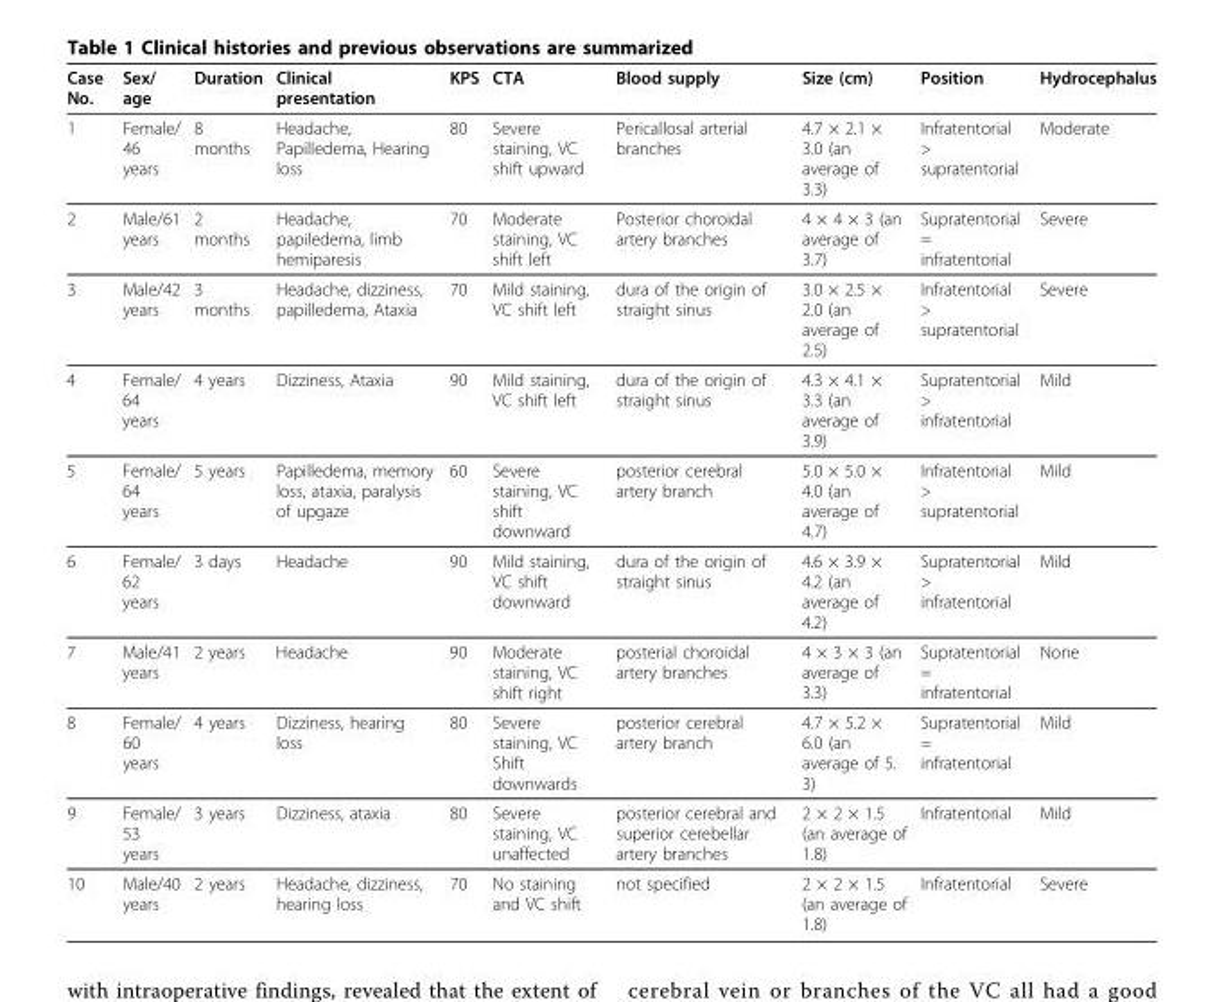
<table><thead><tr><td>Case No.</td><td>Sex/ age</td><td>Duration</td><td>Clinical presentation</td><td>KPS</td><td>CTA</td><td>Blood supply</td><td>Size (cm)</td><td>Position</td><td>Hydrocephalus</td></tr></thead><tbody><tr><td>1</td><td>Female/ 46 years</td><td>8 months</td><td>Headache, Papilledema, Hearing loss</td><td>80</td><td>Severe staining, VC shift upward</td><td>Pericallosal arterial branches</td><td>4.7 × 2.1 × 3.0 (an average of 3.3)</td><td>Infratentorial &gt; supratentorial</td><td>Moderate</td></tr><tr><td>2</td><td>Male/61 years</td><td>2 months</td><td>Headache, papiledema, limb hemiparesis</td><td>70</td><td>Moderate staining, VC shift left</td><td>Posterior choroidal artery branches</td><td>4 × 4 × 3 (an average of 3.7)</td><td>Supratentorial = infratentorial</td><td>Severe</td></tr><tr><td>3</td><td>Male/42 years</td><td>3 months</td><td>Headache, dizziness, papilledema, Ataxia</td><td>70</td><td>Mild staining, VC shift left</td><td>dura of the origin of straight sinus</td><td>3.0 × 2.5 × 2.0 (an average of 2.5)</td><td>Infratentorial &gt; supratentorial</td><td>Severe</td></tr><tr><td>4</td><td>Female/ 64 years</td><td>4 years</td><td>Dizziness, Ataxia</td><td>90</td><td>Mild staining, VC shift left</td><td>dura of the origin of straight sinus</td><td>4.3 × 4.1 × 3.3 (an average of 3.9)</td><td>Supratentorial &gt; infratentorial</td><td>Mild</td></tr><tr><td>5</td><td>Female/ 64 years</td><td>5 years</td><td>Papilledema, memory loss, ataxia, paralysis of upgaze</td><td>60</td><td>Severe staining, VC shift downward</td><td>posterior cerebral artery branch</td><td>5.0 × 5.0 × 4.0 (an average of 4.7)</td><td>Infratentorial &gt; supratentorial</td><td>Mild</td></tr><tr><td>6</td><td>Female/ 62 years</td><td>3 days</td><td>Headache</td><td>90</td><td>Mild staining, VC shift downward</td><td>dura of the origin of straight sinus</td><td>4.6 × 3.9 × 4.2 (an average of 4.2)</td><td>Supratentorial &gt; infratentorial</td><td>Mild</td></tr><tr><td>7</td><td>Male/41 years</td><td>2 years</td><td>Headache</td><td>90</td><td>Moderate staining, VC shift right</td><td>posterial choroidal artery branches</td><td>4 × 3 × 3 (an average of 3.3)</td><td>Supratentorial = infratentorial</td><td>None</td></tr><tr><td>8</td><td>Female/ 60 years</td><td>4 years</td><td>Dizziness, hearing loss</td><td>80</td><td>Severe staining, VC Shift downwards</td><td>posterior cerebral artery branch</td><td>4.7 × 5.2 × 6.0 (an average of 5. 3)</td><td>Supratentorial = infratentorial</td><td>Mild</td></tr><tr><td>9</td><td>Female/ 53 years</td><td>3 years</td><td>Dizziness, ataxia</td><td>80</td><td>Severe staining, VC unaffected</td><td>posterior cerebral and superior cerebellar artery branches</td><td>2 × 2 × 1.5 (an average of 1.8)</td><td>Infratentorial</td><td>Mild</td></tr><tr><td>10</td><td>Male/40 years</td><td>2 years</td><td>Headache, dizziness, hearing loss</td><td>70</td><td>No staining and VC shift</td><td>not specified</td><td>2 × 2 × 1.5 (an average of 1.8)</td><td>Infratentorial</td><td>Severe</td></tr></tbody></table>